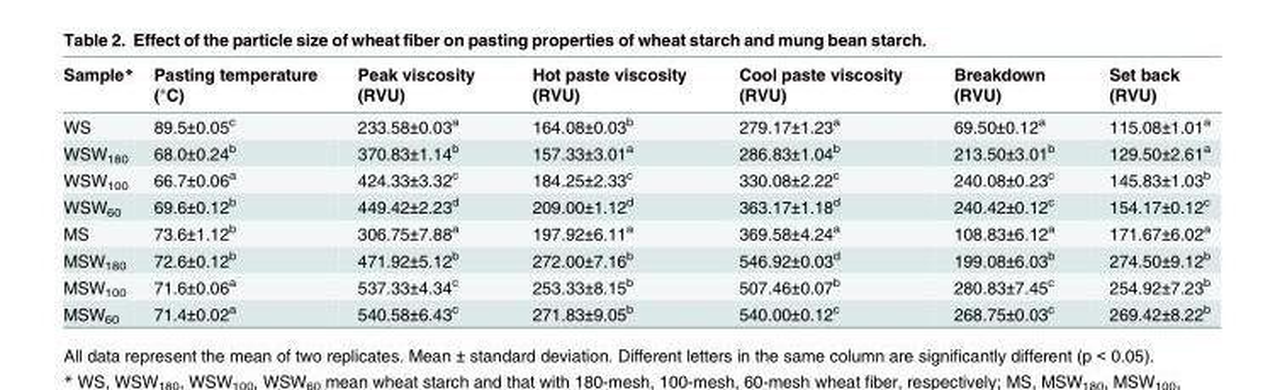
<table><thead><tr><td>Sample*</td><td>Pasting temperature (°C)</td><td>Peak viscosity (RVU)</td><td>Hot paste viscosity (RVU)</td><td>Cool paste viscosity (RVU)</td><td>Breakdown (RVU)</td><td>Set back (RVU)</td></tr></thead><tbody><tr><td>WS</td><td>89.5±0.05<sup>c</sup></td><td>233.58±0.03<sup>a</sup></td><td>164.08±0.03<sup>b</sup></td><td>279.17±1.23<sup>a</sup></td><td>69.50±0.12<sup>a</sup></td><td>115.08±1.01<sup>a</sup></td></tr><tr><td>WSW<sub>180</sub></td><td>68.0±0.24<sup>b</sup></td><td>370.83±1.14<sup>b</sup></td><td>157.33±3.01<sup>a</sup></td><td>286.83±1.04<sup>b</sup></td><td>213.50±3.01<sup>b</sup></td><td>129.50±2.61<sup>a</sup></td></tr><tr><td>WSW<sub>100</sub></td><td>66.7±0.06<sup>a</sup></td><td>424.33±3.32<sup>c</sup></td><td>184.25±2.33<sup>c</sup></td><td>330.08±2.22<sup>c</sup></td><td>240.08±0.23<sup>c</sup></td><td>145.83±1.03<sup>b</sup></td></tr><tr><td>WSW<sub>60</sub></td><td>69.6±0.12<sup>b</sup></td><td>449.42±2.23<sup>d</sup></td><td>209.00±1.12<sup>d</sup></td><td>363.17±1.18<sup>d</sup></td><td>240.42±0.12<sup>c</sup></td><td>154.17±0.12<sup>c</sup></td></tr><tr><td>MS</td><td>73.6±1.12<sup>b</sup></td><td>306.75±7.88<sup>a</sup></td><td>197.92±6.11<sup>a</sup></td><td>369.58±4.24<sup>a</sup></td><td>108.83±6.12<sup>a</sup></td><td>171.67±6.02<sup>a</sup></td></tr><tr><td>MSW<sub>180</sub></td><td>72.6±0.12<sup>b</sup></td><td>471.92±5.12<sup>b</sup></td><td>272.00±7.16<sup>b</sup></td><td>546.92±0.03<sup>d</sup></td><td>199.08±6.03<sup>b</sup></td><td>274.50±9.12<sup>b</sup></td></tr><tr><td>MSW<sub>100</sub></td><td>71.6±0.06<sup>a</sup></td><td>537.33±4.34<sup>c</sup></td><td>253.33±8.15<sup>b</sup></td><td>507.46±0.07<sup>b</sup></td><td>280.83±7.45<sup>c</sup></td><td>254.92±7.23<sup>b</sup></td></tr><tr><td>MSW<sub>60</sub></td><td>71.4±0.02<sup>a</sup></td><td>540.58±6.43<sup>c</sup></td><td>271.83±9.05<sup>b</sup></td><td>540.00±0.12<sup>c</sup></td><td>268.75±0.03<sup>c</sup></td><td>269.42±8.22<sup>b</sup></td></tr></tbody></table>